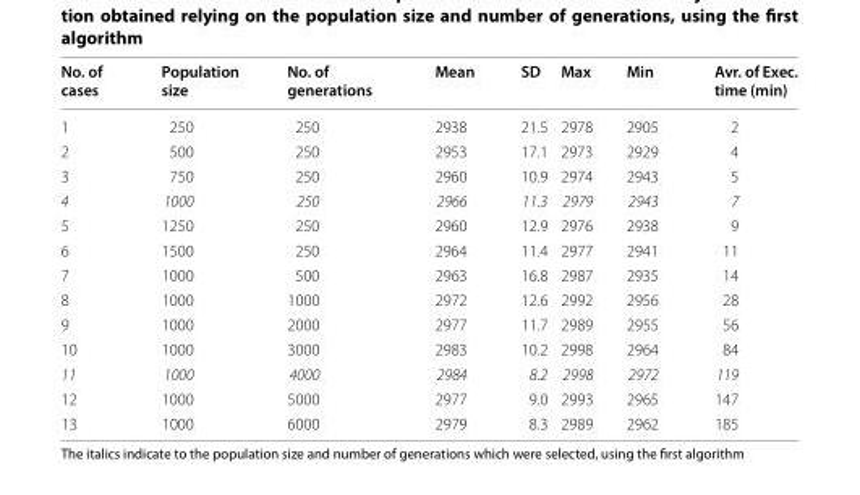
<table><thead><tr><td>No. of cases</td><td>Population size</td><td>No. of generations</td><td>Mean</td><td>SD</td><td>Max</td><td>Min</td><td>Avr. of Exec. time (min)</td></tr></thead><tbody><tr><td>1</td><td>250</td><td>250</td><td>2938</td><td>21.5</td><td>2978</td><td>2905</td><td>2</td></tr><tr><td>2</td><td>500</td><td>250</td><td>2953</td><td>17.1</td><td>2973</td><td>2929</td><td>4</td></tr><tr><td>3</td><td>750</td><td>250</td><td>2960</td><td>10.9</td><td>2974</td><td>2943</td><td>5</td></tr><tr><td>4</td><td>1000</td><td>250</td><td>2966</td><td>11.3</td><td>2979</td><td>2943</td><td>7</td></tr><tr><td>5</td><td>1250</td><td>250</td><td>2960</td><td>12.9</td><td>2976</td><td>2938</td><td>9</td></tr><tr><td>6</td><td>1500</td><td>250</td><td>2964</td><td>11.4</td><td>2977</td><td>2941</td><td>11</td></tr><tr><td>7</td><td>1000</td><td>500</td><td>2963</td><td>16.8</td><td>2987</td><td>2935</td><td>14</td></tr><tr><td>8</td><td>1000</td><td>1000</td><td>2972</td><td>12.6</td><td>2992</td><td>2956</td><td>28</td></tr><tr><td>9</td><td>1000</td><td>2000</td><td>2977</td><td>11.7</td><td>2989</td><td>2955</td><td>56</td></tr><tr><td>10</td><td>1000</td><td>3000</td><td>2983</td><td>10.2</td><td>2998</td><td>2964</td><td>84</td></tr><tr><td>11</td><td>1000</td><td>4000</td><td>2984</td><td>8.2</td><td>2998</td><td>2972</td><td>119</td></tr><tr><td>12</td><td>1000</td><td>5000</td><td>2977</td><td>9.0</td><td>2993</td><td>2965</td><td>147</td></tr><tr><td>13</td><td>1000</td><td>6000</td><td>2979</td><td>8.3</td><td>2989</td><td>2962</td><td>185</td></tr></tbody></table>